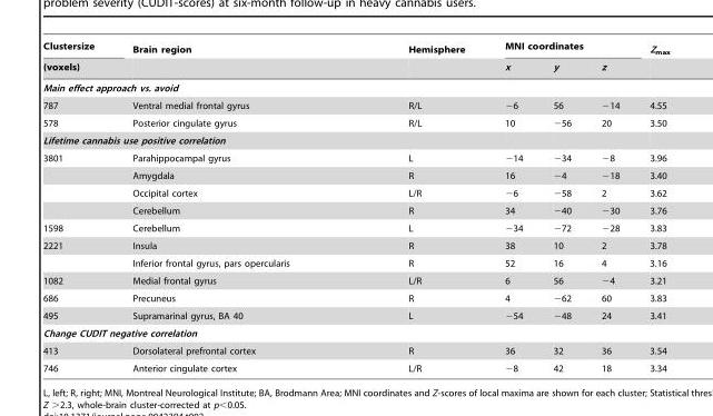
<table><thead><tr><td rowspan="2">Clustersize (voxels)</td><td rowspan="2">Brain region</td><td rowspan="2">Hemisphere</td><td colspan="3">MNI coordinates</td><td rowspan="2">Z<sub>max</sub></td></tr><tr><td>x</td><td>y</td><td>z</td></tr></thead><tbody><tr><td colspan="7">Main effect approach vs. avoid</td></tr><tr><td>787</td><td>Ventral medial frontal gyrus</td><td>R/L</td><td>−6</td><td>56</td><td>−14</td><td>4.55</td></tr><tr><td>578</td><td>Posterior cingulate gyrus</td><td>R/L</td><td>10</td><td>−56</td><td>20</td><td>3.50</td></tr><tr><td colspan="7">Lifetime cannabis use positive correlation</td></tr><tr><td rowspan="4">3801</td><td>Parahippocampal gyrus</td><td>L</td><td>−14</td><td>−34</td><td>−8</td><td>3.96</td></tr><tr><td>Amygdala</td><td>R</td><td>16</td><td>−4</td><td>−18</td><td>3.40</td></tr><tr><td>Occipital cortex</td><td>L/R</td><td>−6</td><td>−58</td><td>2</td><td>3.62</td></tr><tr><td>Cerebellum</td><td>R</td><td>34</td><td>−40</td><td>−30</td><td>3.76</td></tr><tr><td>1598</td><td>Cerebellum</td><td>L</td><td>−34</td><td>−72</td><td>−28</td><td>3.83</td></tr><tr><td rowspan="2">2221</td><td>Insula</td><td>R</td><td>38</td><td>10</td><td>2</td><td>3.78</td></tr><tr><td>Inferior frontal gyrus, pars opercularis</td><td>R</td><td>52</td><td>16</td><td>4</td><td>3.16</td></tr><tr><td>1082</td><td>Medial frontal gyrus</td><td>L/R</td><td>6</td><td>56</td><td>−4</td><td>3.21</td></tr><tr><td>686</td><td>Precuneus</td><td>R</td><td>4</td><td>−62</td><td>60</td><td>3.83</td></tr><tr><td>495</td><td>Supramarinal gyrus, BA 40</td><td>L</td><td>−54</td><td>−48</td><td>24</td><td>3.41</td></tr><tr><td colspan="7">Change CUDIT negative correlation</td></tr><tr><td>413</td><td>Dorsolateral prefrontal cortex</td><td>R</td><td>36</td><td>32</td><td>36</td><td>3.54</td></tr><tr><td>746</td><td>Anterior cingulate cortex</td><td>L/R</td><td>−8</td><td>42</td><td>18</td><td>3.34</td></tr></tbody></table>